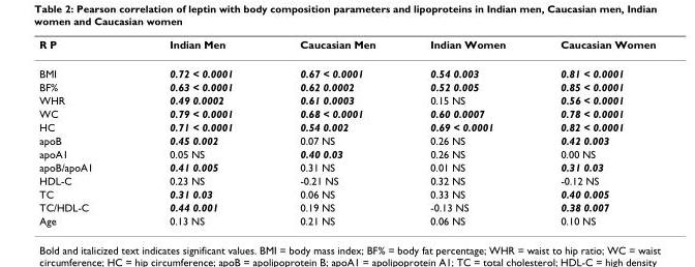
<table><thead><tr><td>R P</td><td>Indian Men</td><td>Caucasian Men</td><td>Indian Women</td><td>Caucasian Women</td></tr></thead><tbody><tr><td>BMI</td><td>0.72 &lt; 0.0001</td><td>0.67 &lt; 0.0001</td><td>0.54 0.003</td><td>0.81 &lt; 0.0001</td></tr><tr><td>BF%</td><td>0.63 &lt; 0.0001</td><td>0.62 0.0002</td><td>0.52 0.005</td><td>0.85 &lt; 0.0001</td></tr><tr><td>WHR</td><td>0.49 0.0002</td><td>0.61 0.0003</td><td>0.15 NS</td><td>0.56 &lt; 0.0001</td></tr><tr><td>WC</td><td>0.79 &lt; 0.0001</td><td>0.68 &lt; 0.0001</td><td>0.60 0.0007</td><td>0.78 &lt; 0.0001</td></tr><tr><td>HC</td><td>0.71 &lt; 0.0001</td><td>0.54 0.002</td><td>0.69 &lt; 0.0001</td><td>0.82 &lt; 0.0001</td></tr><tr><td>apoB</td><td>0.45 0.002</td><td>0.07 NS</td><td>0.26 NS</td><td>0.42 0.003</td></tr><tr><td>apoA1</td><td>0.05 NS</td><td>0.40 0.03</td><td>0.26 NS</td><td>0.00 NS</td></tr><tr><td>apoB/apoA1</td><td>0.41 0.005</td><td>0.31 NS</td><td>0.01 NS</td><td>0.31 0.03</td></tr><tr><td>HDL-C</td><td>0.23 NS</td><td>-0.21 NS</td><td>0.32 NS</td><td>-0.12 NS</td></tr><tr><td>TC</td><td>0.31 0.03</td><td>0.06 NS</td><td>0.33 NS</td><td>0.40 0.005</td></tr><tr><td>TC/HDL-C</td><td>0.44 0.001</td><td>0.19 NS</td><td>-0.13 NS</td><td>0.38 0.007</td></tr><tr><td>Age</td><td>0.13 NS</td><td>0.21 NS</td><td>0.06 NS</td><td>0.10 NS</td></tr></tbody></table>